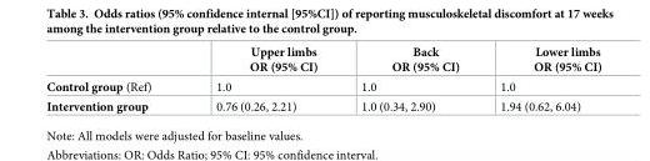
<table><thead><tr><td></td><td>Upper limbs OR (95% CI)</td><td>Back OR (95% CI)</td><td>Lower limbs OR (95% CI)</td></tr></thead><tbody><tr><td>Control group (Ref)</td><td>1.0</td><td>1.0</td><td>1.0</td></tr><tr><td>Intervention group</td><td>0.76 (0.26, 2.21)</td><td>1.0 (0.34, 2.90)</td><td>1.94 (0.62, 6.04)</td></tr></tbody></table>